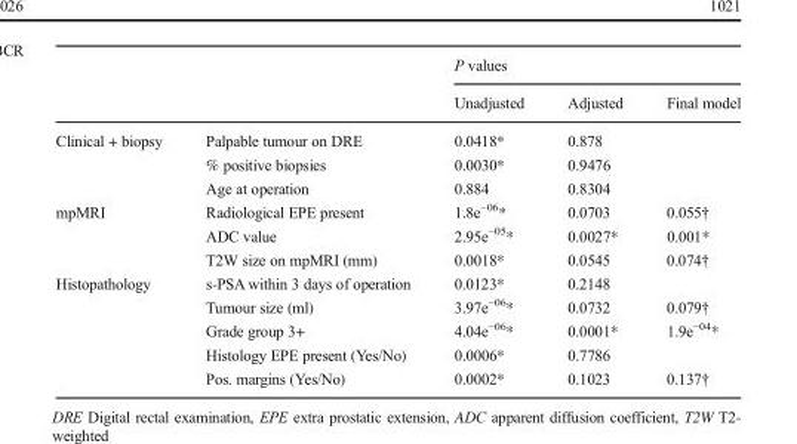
<table><thead><tr><td rowspan="2"></td><td rowspan="2"></td><td colspan="3">P values</td></tr><tr><td>Unadjusted</td><td>Adjusted</td><td>Final model</td></tr></thead><tbody><tr><td rowspan="3">Clinical + biopsy</td><td>Palpable tumour on DRE</td><td>0.0418*</td><td>0.878</td><td></td></tr><tr><td>% positive biopsies</td><td>0.0030*</td><td>0.9476</td><td></td></tr><tr><td>Age at operation</td><td>0.884</td><td>0.8304</td><td></td></tr><tr><td rowspan="3">mpMRI</td><td>Radiological EPE present</td><td>1.8e<sup>−06</sup>*</td><td>0.0703</td><td>0.055†</td></tr><tr><td>ADC value</td><td>2.95e<sup>−05</sup>*</td><td>0.0027*</td><td>0.001*</td></tr><tr><td>T2W size on mpMRI (mm)</td><td>0.0018*</td><td>0.0545</td><td>0.074†</td></tr><tr><td rowspan="5">Histopathology</td><td>s-PSA within 3 days of operation</td><td>0.0123*</td><td>0.2148</td><td></td></tr><tr><td>Tumour size (ml)</td><td>3.97e<sup>−06</sup>*</td><td>0.0732</td><td>0.079†</td></tr><tr><td>Grade group 3+</td><td>4.04e<sup>−06</sup>*</td><td>0.0001*</td><td>1.9e<sup>−04</sup>*</td></tr><tr><td>Histology EPE present (Yes/No)</td><td>0.0006*</td><td>0.7786</td><td></td></tr><tr><td>Pos. margins (Yes/No)</td><td>0.0002*</td><td>0.1023</td><td>0.137†</td></tr></tbody></table>